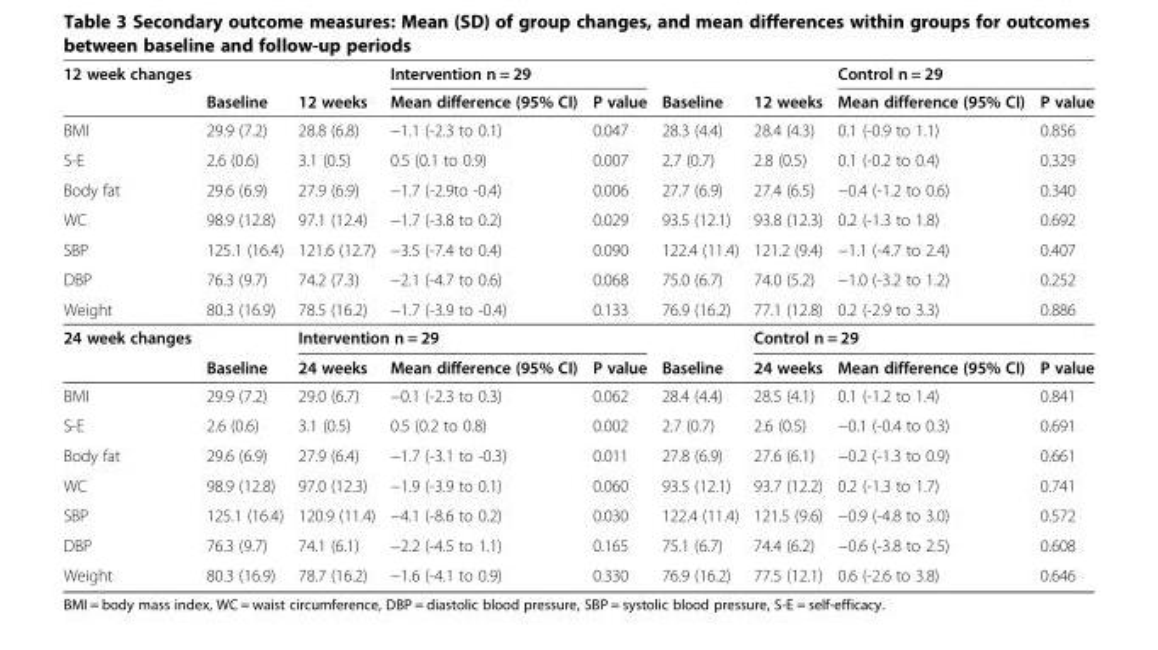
<table><thead><tr><td rowspan="2">12 week changes</td><td rowspan="2">Baseline</td><td rowspan="2">12 weeks</td><td colspan="2">Intervention n = 29</td><td rowspan="2">Baseline</td><td rowspan="2">12 weeks</td><td colspan="2">Control n = 29</td></tr><tr><td>Mean difference (95% CI)</td><td>P value</td><td>Mean difference (95% CI)</td><td>P value</td></tr></thead><tbody><tr><td>BMI</td><td>29.9 (7.2)</td><td>28.8 (6.8)</td><td>−1.1 (-2.3 to 0.1)</td><td>0.047</td><td>28.3 (4.4)</td><td>28.4 (4.3)</td><td>0.1 (-0.9 to 1.1)</td><td>0.856</td></tr><tr><td>S-E</td><td>2.6 (0.6)</td><td>3.1 (0.5)</td><td>0.5 (0.1 to 0.9)</td><td>0.007</td><td>2.7 (0.7)</td><td>2.8 (0.5)</td><td>0.1 (-0.2 to 0.4)</td><td>0.329</td></tr><tr><td>Body fat</td><td>29.6 (6.9)</td><td>27.9 (6.9)</td><td>−1.7 (-2.9to -0.4)</td><td>0.006</td><td>27.7 (6.9)</td><td>27.4 (6.5)</td><td>−0.4 (-1.2 to 0.6)</td><td>0.340</td></tr><tr><td>WC</td><td>98.9 (12.8)</td><td>97.1 (12.4)</td><td>−1.7 (-3.8 to 0.2)</td><td>0.029</td><td>93.5 (12.1)</td><td>93.8 (12.3)</td><td>0.2 (-1.3 to 1.8)</td><td>0.692</td></tr><tr><td>SBP</td><td>125.1 (16.4)</td><td>121.6 (12.7)</td><td>−3.5 (-7.4 to 0.4)</td><td>0.090</td><td>122.4 (11.4)</td><td>121.2 (9.4)</td><td>−1.1 (-4.7 to 2.4)</td><td>0.407</td></tr><tr><td>DBP</td><td>76.3 (9.7)</td><td>74.2 (7.3)</td><td>−2.1 (-4.7 to 0.6)</td><td>0.068</td><td>75.0 (6.7)</td><td>74.0 (5.2)</td><td>−1.0 (-3.2 to 1.2)</td><td>0.252</td></tr><tr><td>Weight</td><td>80.3 (16.9)</td><td>78.5 (16.2)</td><td>−1.7 (-3.9 to -0.4)</td><td>0.133</td><td>76.9 (16.2)</td><td>77.1 (12.8)</td><td>0.2 (-2.9 to 3.3)</td><td>0.886</td></tr><tr><td rowspan="2">24 week changes</td><td></td><td colspan="3">Intervention n = 29</td><td></td><td colspan="3">Control n = 29</td></tr><tr><td>Baseline</td><td>24 weeks</td><td>Mean difference (95% CI)</td><td>P value</td><td>Baseline</td><td>24 weeks</td><td>Mean difference (95% CI)</td><td>P value</td></tr><tr><td>BMI</td><td>29.9 (7.2)</td><td>29.0 (6.7)</td><td>−0.1 (-2.3 to 0.3)</td><td>0.062</td><td>28.4 (4.4)</td><td>28.5 (4.1)</td><td>0.1 (-1.2 to 1.4)</td><td>0.841</td></tr><tr><td>S-E</td><td>2.6 (0.6)</td><td>3.1 (0.5)</td><td>0.5 (0.2 to 0.8)</td><td>0.002</td><td>2.7 (0.7)</td><td>2.6 (0.5)</td><td>−0.1 (-0.4 to 0.3)</td><td>0.691</td></tr><tr><td>Body fat</td><td>29.6 (6.9)</td><td>27.9 (6.4)</td><td>−1.7 (-3.1 to -0.3)</td><td>0.011</td><td>27.8 (6.9)</td><td>27.6 (6.1)</td><td>−0.2 (-1.3 to 0.9)</td><td>0.661</td></tr><tr><td>WC</td><td>98.9 (12.8)</td><td>97.0 (12.3)</td><td>−1.9 (-3.9 to 0.1)</td><td>0.060</td><td>93.5 (12.1)</td><td>93.7 (12.2)</td><td>0.2 (-1.3 to 1.7)</td><td>0.741</td></tr><tr><td>SBP</td><td>125.1 (16.4)</td><td>120.9 (11.4)</td><td>−4.1 (-8.6 to 0.2)</td><td>0.030</td><td>122.4 (11.4)</td><td>121.5 (9.6)</td><td>−0.9 (-4.8 to 3.0)</td><td>0.572</td></tr><tr><td>DBP</td><td>76.3 (9.7)</td><td>74.1 (6.1)</td><td>−2.2 (-4.5 to 1.1)</td><td>0.165</td><td>75.1 (6.7)</td><td>74.4 (6.2)</td><td>−0.6 (-3.8 to 2.5)</td><td>0.608</td></tr><tr><td>Weight</td><td>80.3 (16.9)</td><td>78.7 (16.2)</td><td>−1.6 (-4.1 to 0.9)</td><td>0.330</td><td>76.9 (16.2)</td><td>77.5 (12.1)</td><td>0.6 (-2.6 to 3.8)</td><td>0.646</td></tr></tbody></table>